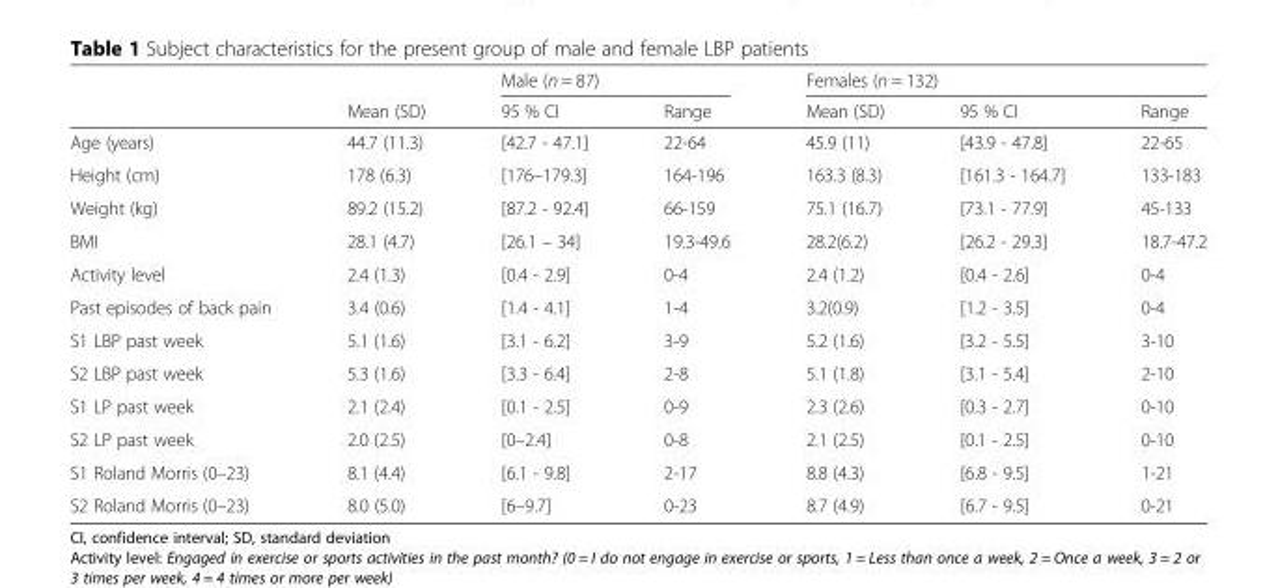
<table><thead><tr><td rowspan="2"></td><td rowspan="2">Mean (SD)</td><td colspan="2">Male (n = 87)</td><td colspan="3">Females (n = 132)</td></tr><tr><td>95 % CI</td><td>Range</td><td>Mean (SD)</td><td>95 % CI</td><td>Range</td></tr></thead><tbody><tr><td>Age (years)</td><td>44.7 (11.3)</td><td>[42.7 - 47.1]</td><td>22-64</td><td>45.9 (11)</td><td>[43.9 - 47.8]</td><td>22-65</td></tr><tr><td>Height (cm)</td><td>178 (6.3)</td><td>[176–179.3]</td><td>164-196</td><td>163.3 (8.3)</td><td>[161.3 - 164.7]</td><td>133-183</td></tr><tr><td>Weight (kg)</td><td>89.2 (15.2)</td><td>[87.2 - 92.4]</td><td>66-159</td><td>75.1 (16.7)</td><td>[73.1 - 77.9]</td><td>45-133</td></tr><tr><td>BMI</td><td>28.1 (4.7)</td><td>[26.1 – 34]</td><td>19.3-49.6</td><td>28.2(6.2)</td><td>[26.2 - 29.3]</td><td>18.7-47.2</td></tr><tr><td>Activity level</td><td>2.4 (1.3)</td><td>[0.4 - 2.9]</td><td>0-4</td><td>2.4 (1.2)</td><td>[0.4 - 2.6]</td><td>0-4</td></tr><tr><td>Past episodes of back pain</td><td>3.4 (0.6)</td><td>[1.4 - 4.1]</td><td>1-4</td><td>3.2(0.9)</td><td>[1.2 - 3.5]</td><td>0-4</td></tr><tr><td>S1 LBP past week</td><td>5.1 (1.6)</td><td>[3.1 - 6.2]</td><td>3-9</td><td>5.2 (1.6)</td><td>[3.2 - 5.5]</td><td>3-10</td></tr><tr><td>S2 LBP past week</td><td>5.3 (1.6)</td><td>[3.3 - 6.4]</td><td>2-8</td><td>5.1 (1.8)</td><td>[3.1 - 5.4]</td><td>2-10</td></tr><tr><td>S1 LP past week</td><td>2.1 (2.4)</td><td>[0.1 - 2.5]</td><td>0-9</td><td>2.3 (2.6)</td><td>[0.3 - 2.7]</td><td>0-10</td></tr><tr><td>S2 LP past week</td><td>2.0 (2.5)</td><td>[0–2.4]</td><td>0-8</td><td>2.1 (2.5)</td><td>[0.1 - 2.5]</td><td>0-10</td></tr><tr><td>S1 Roland Morris (0–23)</td><td>8.1 (4.4)</td><td>[6.1 - 9.8]</td><td>2-17</td><td>8.8 (4.3)</td><td>[6.8 - 9.5]</td><td>1-21</td></tr><tr><td>S2 Roland Morris (0–23)</td><td>8.0 (5.0)</td><td>[6–9.7]</td><td>0-23</td><td>8.7 (4.9)</td><td>[6.7 - 9.5]</td><td>0-21</td></tr></tbody></table>